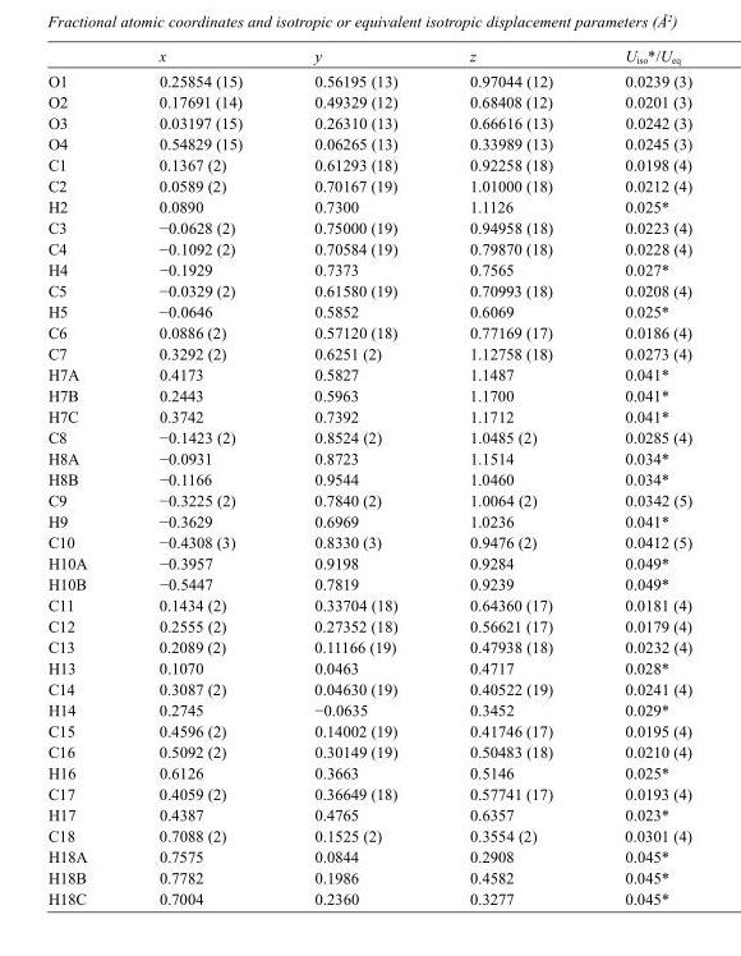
<table><thead><tr><td></td><td>x</td><td>y</td><td>z</td><td>U<sub>iso</sub>*/U<sub>eq</sub></td></tr></thead><tbody><tr><td>O1</td><td>0.25854 (15)</td><td>0.56195 (13)</td><td>0.97044 (12)</td><td>0.0239 (3)</td></tr><tr><td>O2</td><td>0.17691 (14)</td><td>0.49329 (12)</td><td>0.68408 (12)</td><td>0.0201 (3)</td></tr><tr><td>O3</td><td>0.03197 (15)</td><td>0.26310 (13)</td><td>0.66616 (13)</td><td>0.0242 (3)</td></tr><tr><td>O4</td><td>0.54829 (15)</td><td>0.06265 (13)</td><td>0.33989 (13)</td><td>0.0245 (3)</td></tr><tr><td>C1</td><td>0.1367 (2)</td><td>0.61293 (18)</td><td>0.92258 (18)</td><td>0.0198 (4)</td></tr><tr><td>C2</td><td>0.0589 (2)</td><td>0.70167 (19)</td><td>1.01000 (18)</td><td>0.0212 (4)</td></tr><tr><td>H2</td><td>0.0890</td><td>0.7300</td><td>1.1126</td><td>0.025*</td></tr><tr><td>C3</td><td>−0.0628 (2)</td><td>0.75000 (19)</td><td>0.94958 (18)</td><td>0.0223 (4)</td></tr><tr><td>C4</td><td>−0.1092 (2)</td><td>0.70584 (19)</td><td>0.79870 (18)</td><td>0.0228 (4)</td></tr><tr><td>H4</td><td>−0.1929</td><td>0.7373</td><td>0.7565</td><td>0.027*</td></tr><tr><td>C5</td><td>−0.0329 (2)</td><td>0.61580 (19)</td><td>0.70993 (18)</td><td>0.0208 (4)</td></tr><tr><td>H5</td><td>−0.0646</td><td>0.5852</td><td>0.6069</td><td>0.025*</td></tr><tr><td>C6</td><td>0.0886 (2)</td><td>0.57120 (18)</td><td>0.77169 (17)</td><td>0.0186 (4)</td></tr><tr><td>C7</td><td>0.3292 (2)</td><td>0.6251 (2)</td><td>1.12758 (18)</td><td>0.0273 (4)</td></tr><tr><td>H7A</td><td>0.4173</td><td>0.5827</td><td>1.1487</td><td>0.041*</td></tr><tr><td>H7B</td><td>0.2443</td><td>0.5963</td><td>1.1700</td><td>0.041*</td></tr><tr><td>H7C</td><td>0.3742</td><td>0.7392</td><td>1.1712</td><td>0.041*</td></tr><tr><td>C8</td><td>−0.1423 (2)</td><td>0.8524 (2)</td><td>1.0485 (2)</td><td>0.0285 (4)</td></tr><tr><td>H8A</td><td>−0.0931</td><td>0.8723</td><td>1.1514</td><td>0.034*</td></tr><tr><td>H8B</td><td>−0.1166</td><td>0.9544</td><td>1.0460</td><td>0.034*</td></tr><tr><td>C9</td><td>−0.3225 (2)</td><td>0.7840 (2)</td><td>1.0064 (2)</td><td>0.0342 (5)</td></tr><tr><td>H9</td><td>−0.3629</td><td>0.6969</td><td>1.0236</td><td>0.041*</td></tr><tr><td>C10</td><td>−0.4308 (3)</td><td>0.8330 (3)</td><td>0.9476 (2)</td><td>0.0412 (5)</td></tr><tr><td>H10A</td><td>−0.3957</td><td>0.9198</td><td>0.9284</td><td>0.049*</td></tr><tr><td>H10B</td><td>−0.5447</td><td>0.7819</td><td>0.9239</td><td>0.049*</td></tr><tr><td>C11</td><td>0.1434 (2)</td><td>0.33704 (18)</td><td>0.64360 (17)</td><td>0.0181 (4)</td></tr><tr><td>C12</td><td>0.2555 (2)</td><td>0.27352 (18)</td><td>0.56621 (17)</td><td>0.0179 (4)</td></tr><tr><td>C13</td><td>0.2089 (2)</td><td>0.11166 (19)</td><td>0.47938 (18)</td><td>0.0232 (4)</td></tr><tr><td>H13</td><td>0.1070</td><td>0.0463</td><td>0.4717</td><td>0.028*</td></tr><tr><td>C14</td><td>0.3087 (2)</td><td>0.04630 (19)</td><td>0.40522 (19)</td><td>0.0241 (4)</td></tr><tr><td>H14</td><td>0.2745</td><td>−0.0635</td><td>0.3452</td><td>0.029*</td></tr><tr><td>C15</td><td>0.4596 (2)</td><td>0.14002 (19)</td><td>0.41746 (17)</td><td>0.0195 (4)</td></tr><tr><td>C16</td><td>0.5092 (2)</td><td>0.30149 (19)</td><td>0.50483 (18)</td><td>0.0210 (4)</td></tr><tr><td>H16</td><td>0.6126</td><td>0.3663</td><td>0.5146</td><td>0.025*</td></tr><tr><td>C17</td><td>0.4059 (2)</td><td>0.36649 (18)</td><td>0.57741 (17)</td><td>0.0193 (4)</td></tr><tr><td>H17</td><td>0.4387</td><td>0.4765</td><td>0.6357</td><td>0.023*</td></tr><tr><td>C18</td><td>0.7088 (2)</td><td>0.1525 (2)</td><td>0.3554 (2)</td><td>0.0301 (4)</td></tr><tr><td>H18A</td><td>0.7575</td><td>0.0844</td><td>0.2908</td><td>0.045*</td></tr><tr><td>H18B</td><td>0.7782</td><td>0.1986</td><td>0.4582</td><td>0.045*</td></tr><tr><td>H18C</td><td>0.7004</td><td>0.2360</td><td>0.3277</td><td>0.045*</td></tr></tbody></table>